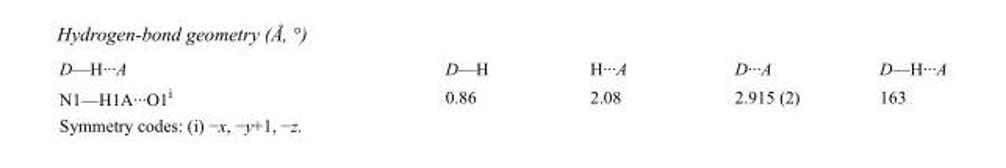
<table><tbody><tr><td>D—H···A</td><td>D—H</td><td>H···A</td><td>D···A</td><td>D—H···A</td></tr><tr><td>N1—H1A···O1<sup>i</sup></td><td>0.86</td><td>2.08</td><td>2.915 (2)</td><td>163</td></tr></tbody></table>